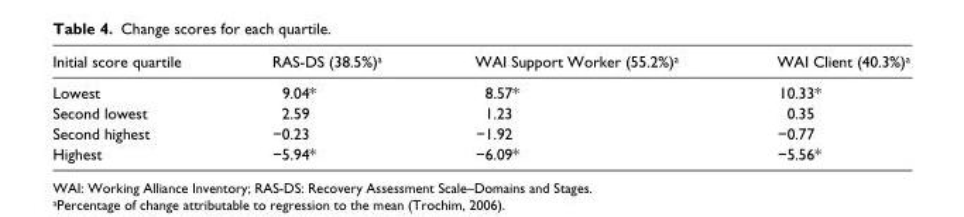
<table><thead><tr><td>Initial score quartile</td><td>RAS-DS (38.5%)<sup>a</sup></td><td>WAI Support Worker (55.2%)<sup>a</sup></td><td>WAI Client (40.3%)<sup>a</sup></td></tr></thead><tbody><tr><td>Lowest</td><td>9.04*</td><td>8.57*</td><td>10.33*</td></tr><tr><td>Second lowest</td><td>2.59</td><td>1.23</td><td>0.35</td></tr><tr><td>Second highest</td><td>−0.23</td><td>−1.92</td><td>−0.77</td></tr><tr><td>Highest</td><td>−5.94*</td><td>−6.09*</td><td>−5.56*</td></tr></tbody></table>